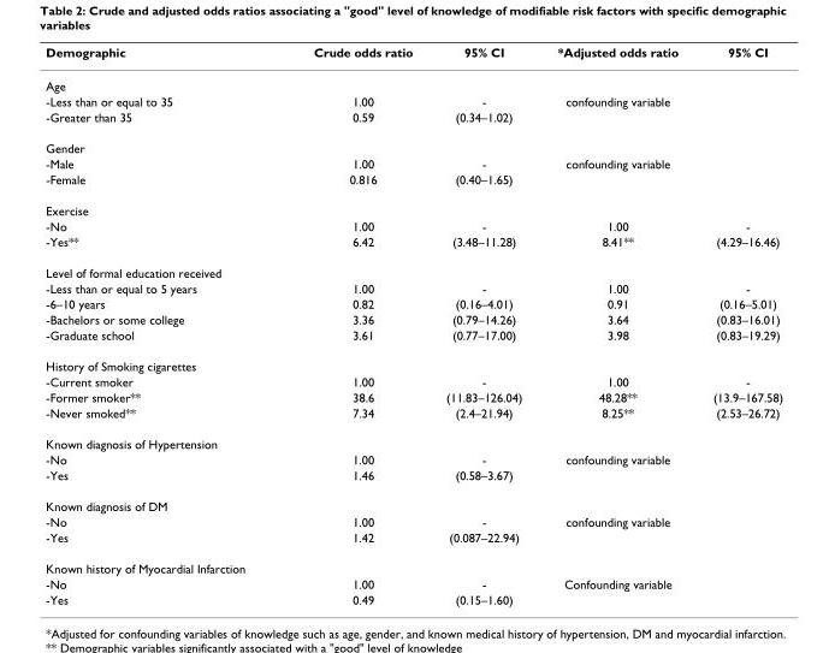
<table><thead><tr><td>Demographic</td><td>Crude odds ratio</td><td>95% CI</td><td>*Adjusted odds ratio</td><td>95% CI</td></tr></thead><tbody><tr><td colspan="5">Age</td></tr><tr><td>-Less than or equal to 35</td><td>1.00</td><td>-</td><td>confounding variable</td><td></td></tr><tr><td>-Greater than 35</td><td>0.59</td><td>(0.34–1.02)</td><td></td><td></td></tr><tr><td colspan="5">Gender</td></tr><tr><td>-Male</td><td>1.00</td><td>-</td><td>confounding variable</td><td></td></tr><tr><td>-Female</td><td>0.816</td><td>(0.40–1.65)</td><td></td><td></td></tr><tr><td colspan="5">Exercise</td></tr><tr><td>-No</td><td>1.00</td><td>-</td><td>1.00</td><td>-</td></tr><tr><td>-Yes**</td><td>6.42</td><td>(3.48–11.28)</td><td>8.41**</td><td>(4.29–16.46)</td></tr><tr><td colspan="5">Level of formal education received</td></tr><tr><td>-Less than or equal to 5 years</td><td>1.00</td><td>-</td><td>1.00</td><td>-</td></tr><tr><td>-6–10 years</td><td>0.82</td><td>(0.16–4.01)</td><td>0.91</td><td>(0.16–5.01)</td></tr><tr><td>-Bachelors or some college</td><td>3.36</td><td>(0.79–14.26)</td><td>3.64</td><td>(0.83–16.01)</td></tr><tr><td>-Graduate school</td><td>3.61</td><td>(0.77–17.00)</td><td>3.98</td><td>(0.83–19.29)</td></tr><tr><td colspan="5">History of Smoking cigarettes</td></tr><tr><td>-Current smoker</td><td>1.00</td><td>-</td><td>1.00</td><td>-</td></tr><tr><td>-Former smoker**</td><td>38.6</td><td>(11.83–126.04)</td><td>48.28**</td><td>(13.9–167.58)</td></tr><tr><td>-Never smoked**</td><td>7.34</td><td>(2.4–21.94)</td><td>8.25**</td><td>(2.53–26.72)</td></tr><tr><td colspan="5">Known diagnosis of Hypertension</td></tr><tr><td>-No</td><td>1.00</td><td>-</td><td>confounding variable</td><td></td></tr><tr><td>-Yes</td><td>1.46</td><td>(0.58–3.67)</td><td></td><td></td></tr><tr><td colspan="5">Known diagnosis of DM</td></tr><tr><td>-No</td><td>1.00</td><td>-</td><td>confounding variable</td><td></td></tr><tr><td>-Yes</td><td>1.42</td><td>(0.087–22.94)</td><td></td><td></td></tr><tr><td colspan="5">Known history of Myocardial Infarction</td></tr><tr><td>-No</td><td>1.00</td><td>-</td><td>Confounding variable</td><td></td></tr><tr><td>-Yes</td><td>0.49</td><td>(0.15–1.60)</td><td></td><td></td></tr></tbody></table>